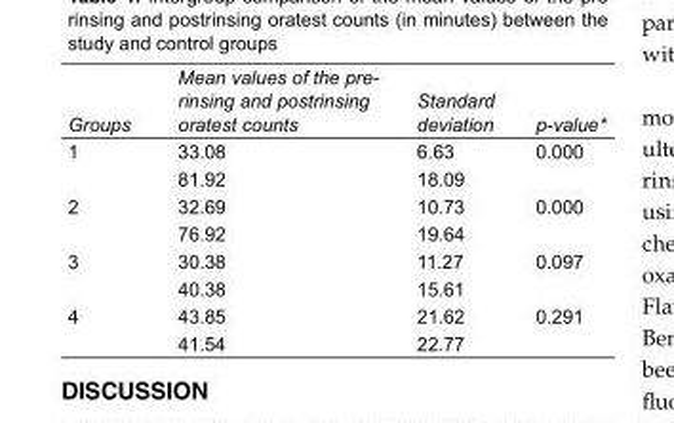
<table><tbody><tr><td>Groups</td><td>Mean values of the pre- rinsing and postrinsing oratest counts</td><td>Standard deviation</td><td>p-value*</td></tr><tr><td rowspan="2">1</td><td>33.08</td><td>6.63</td><td>0.000</td></tr><tr><td>81.92</td><td>18.09</td><td></td></tr><tr><td rowspan="2">2</td><td>32.69</td><td>10.73</td><td>0.000</td></tr><tr><td>76.92</td><td>19.64</td><td></td></tr><tr><td rowspan="2">3</td><td>30.38</td><td>11.27</td><td>0.097</td></tr><tr><td>40.38</td><td>15.61</td><td></td></tr><tr><td rowspan="2">4</td><td>43.85</td><td>21.62</td><td>0.291</td></tr><tr><td>41.54</td><td>22.77</td><td></td></tr></tbody></table>